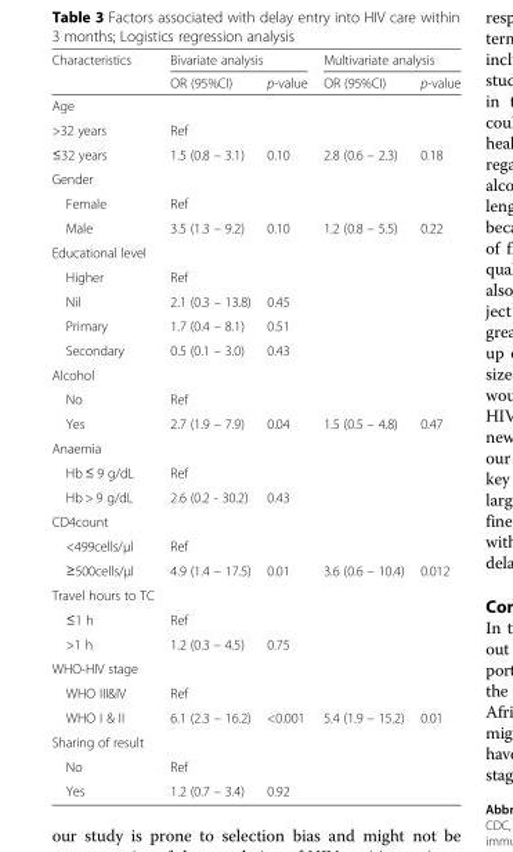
<table><thead><tr><td rowspan="2">Characteristics</td><td colspan="2">Bivariate analysis</td><td colspan="2">Multivariate analysis</td></tr><tr><td>OR (95%CI)</td><td>p-value</td><td>OR (95%CI)</td><td>p-value</td></tr></thead><tbody><tr><td colspan="5">Age</td></tr><tr><td>&gt;32 years</td><td>Ref</td><td></td><td></td><td></td></tr><tr><td>≤32 years</td><td>1.5 (0.8 – 3.1)</td><td>0.10</td><td>2.8 (0.6 – 2.3)</td><td>0.18</td></tr><tr><td colspan="5">Gender</td></tr><tr><td>Female</td><td>Ref</td><td></td><td></td><td></td></tr><tr><td>Male</td><td>3.5 (1.3 – 9.2)</td><td>0.10</td><td>1.2 (0.8 – 5.5)</td><td>0.22</td></tr><tr><td colspan="5">Educational level</td></tr><tr><td>Higher</td><td>Ref</td><td></td><td></td><td></td></tr><tr><td>Nil</td><td>2.1 (0.3 – 13.8)</td><td>0.45</td><td></td><td></td></tr><tr><td>Primary</td><td>1.7 (0.4 – 8.1)</td><td>0.51</td><td></td><td></td></tr><tr><td>Secondary</td><td>0.5 (0.1 – 3.0)</td><td>0.43</td><td></td><td></td></tr><tr><td colspan="5">Alcohol</td></tr><tr><td>No</td><td>Ref</td><td></td><td></td><td></td></tr><tr><td>Yes</td><td>2.7 (1.9 – 7.9)</td><td>0.04</td><td>1.5 (0.5 – 4.8)</td><td>0.47</td></tr><tr><td colspan="5">Anaemia</td></tr><tr><td>Hb ≤ 9 g/dL</td><td>Ref</td><td></td><td></td><td></td></tr><tr><td>Hb &gt; 9 g/dL</td><td>2.6 (0.2 - 30.2)</td><td>0.43</td><td></td><td></td></tr><tr><td colspan="5">CD4count</td></tr><tr><td>&lt;499cells/μl</td><td>Ref</td><td></td><td></td><td></td></tr><tr><td>≥500cells/μl</td><td>4.9 (1.4 – 17.5)</td><td>0.01</td><td>3.6 (0.6 – 10.4)</td><td>0.012</td></tr><tr><td colspan="5">Travel hours to TC</td></tr><tr><td>≤1 h</td><td>Ref</td><td></td><td></td><td></td></tr><tr><td>&gt;1 h</td><td>1.2 (0.3 – 4.5)</td><td>0.75</td><td></td><td></td></tr><tr><td colspan="5">WHO-HIV stage</td></tr><tr><td>WHO III&amp;IV</td><td>Ref</td><td></td><td></td><td></td></tr><tr><td>WHO I &amp; II</td><td>6.1 (2.3 – 16.2)</td><td>&lt;0.001</td><td>5.4 (1.9 – 15.2)</td><td>0.01</td></tr><tr><td colspan="5">Sharing of result</td></tr><tr><td>No</td><td>Ref</td><td></td><td></td><td></td></tr><tr><td>Yes</td><td>1.2 (0.7 – 3.4)</td><td>0.92</td><td></td><td></td></tr></tbody></table>